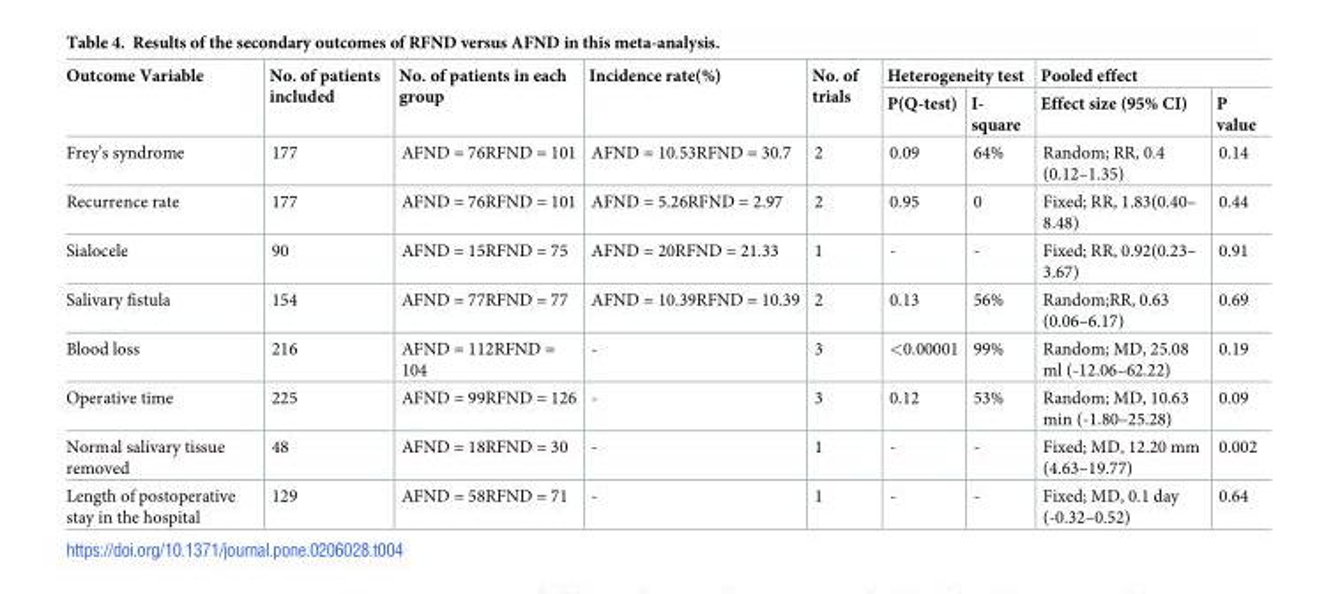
<table><thead><tr><td rowspan="2">Outcome Variable</td><td rowspan="2">No. of patients included</td><td rowspan="2">No. of patients in each group</td><td rowspan="2">Incidence rate(%)</td><td rowspan="2">No. of trials</td><td colspan="2">Heterogeneity test</td><td colspan="2">Pooled effect</td></tr><tr><td>P(Q-test)</td><td>I- square</td><td>Effect size (95% CI)</td><td>P value</td></tr></thead><tbody><tr><td>Frey’s syndrome</td><td>177</td><td>AFND = 76RFND = 101</td><td>AFND = 10.53RFND = 30.7</td><td>2</td><td>0.09</td><td>64%</td><td>Random; RR, 0.4 (0.12–1.35)</td><td>0.14</td></tr><tr><td>Recurrence rate</td><td>177</td><td>AFND = 76RFND = 101</td><td>AFND = 5.26RFND = 2.97</td><td>2</td><td>0.95</td><td>0</td><td>Fixed; RR, 1.83(0.40– 8.48)</td><td>0.44</td></tr><tr><td>Sialocele</td><td>90</td><td>AFND = 15RFND = 75</td><td>AFND = 20RFND = 21.33</td><td>1</td><td>-</td><td>-</td><td>Fixed; RR, 0.92(0.23– 3.67)</td><td>0.91</td></tr><tr><td>Salivary fistula</td><td>154</td><td>AFND = 77RFND = 77</td><td>AFND = 10.39RFND = 10.39</td><td>2</td><td>0.13</td><td>56%</td><td>Random;RR, 0.63 (0.06–6.17)</td><td>0.69</td></tr><tr><td>Blood loss</td><td>216</td><td>AFND = 112RFND = 104</td><td>-</td><td>3</td><td>&lt;0.00001</td><td>99%</td><td>Random; MD, 25.08 ml (-12.06–62.22)</td><td>0.19</td></tr><tr><td>Operative time</td><td>225</td><td>AFND = 99RFND = 126</td><td>-</td><td>3</td><td>0.12</td><td>53%</td><td>Random; MD, 10.63 min (-1.80–25.28)</td><td>0.09</td></tr><tr><td>Normal salivary tissue removed</td><td>48</td><td>AFND = 18RFND = 30</td><td>-</td><td>1</td><td>-</td><td>-</td><td>Fixed; MD, 12.20 mm (4.63–19.77)</td><td>0.002</td></tr><tr><td>Length of postoperative stay in the hospital</td><td>129</td><td>AFND = 58RFND = 71</td><td>-</td><td>1</td><td>-</td><td>-</td><td>Fixed; MD, 0.1 day (-0.32–0.52)</td><td>0.64</td></tr></tbody></table>